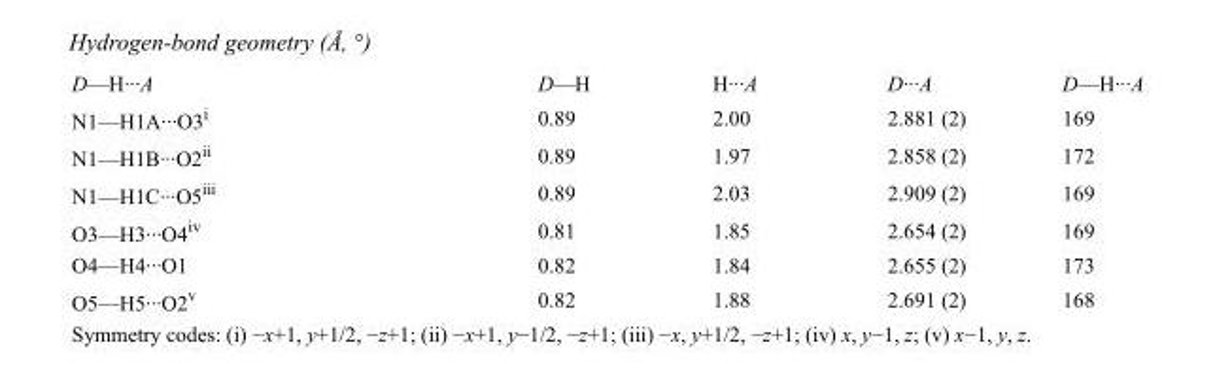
<table><tbody><tr><td>D—H···A</td><td>D—H</td><td>H···A</td><td>D···A</td><td>D—H···A</td></tr><tr><td>N1—H1A···O3<sup>i</sup></td><td>0.89</td><td>2.00</td><td>2.881 (2)</td><td>169</td></tr><tr><td>N1—H1B···O2<sup>ii</sup></td><td>0.89</td><td>1.97</td><td>2.858 (2)</td><td>172</td></tr><tr><td>N1—H1C···O5<sup>iii</sup></td><td>0.89</td><td>2.03</td><td>2.909 (2)</td><td>169</td></tr><tr><td>O3—H3···O4<sup>iv</sup></td><td>0.81</td><td>1.85</td><td>2.654 (2)</td><td>169</td></tr><tr><td>O4—H4···O1</td><td>0.82</td><td>1.84</td><td>2.655 (2)</td><td>173</td></tr><tr><td>O5—H5···O2<sup>v</sup></td><td>0.82</td><td>1.88</td><td>2.691 (2)</td><td>168</td></tr></tbody></table>